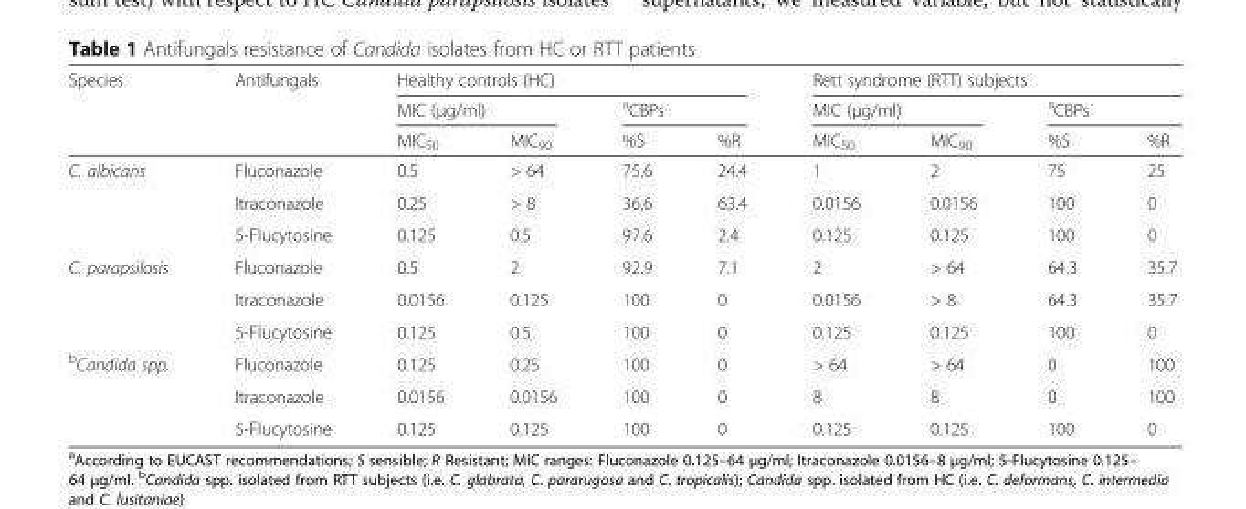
<table><thead><tr><td rowspan="3">Species</td><td rowspan="3">Antifungals</td><td colspan="4">Healthy controls (HC)</td><td colspan="4">Rett syndrome (RTT) subjects</td></tr><tr><td colspan="2">MIC (μg/ml)</td><td colspan="2"><sup>a</sup>CBPs</td><td colspan="2">MIC (μg/ml)</td><td colspan="2"><sup>a</sup>CBPs</td></tr><tr><td>MIC<sub>50</sub></td><td>MIC<sub>90</sub></td><td>%S</td><td>%R</td><td>MIC<sub>50</sub></td><td>MIC<sub>90</sub></td><td>%S</td><td>%R</td></tr></thead><tbody><tr><td rowspan="3">C. albicans</td><td>Fluconazole</td><td>0.5</td><td>&gt; 64</td><td>75.6</td><td>24.4</td><td>1</td><td>2</td><td>75</td><td>25</td></tr><tr><td>Itraconazole</td><td>0.25</td><td>&gt; 8</td><td>36.6</td><td>63.4</td><td>0.0156</td><td>0.0156</td><td>100</td><td>0</td></tr><tr><td>5-Flucytosine</td><td>0.125</td><td>0.5</td><td>97.6</td><td>2.4</td><td>0.125</td><td>0.125</td><td>100</td><td>0</td></tr><tr><td rowspan="3">C. parapsilosis</td><td>Fluconazole</td><td>0.5</td><td>2</td><td>92.9</td><td>7.1</td><td>2</td><td>&gt; 64</td><td>64.3</td><td>35.7</td></tr><tr><td>Itraconazole</td><td>0.0156</td><td>0.125</td><td>100</td><td>0</td><td>0.0156</td><td>&gt; 8</td><td>64.3</td><td>35.7</td></tr><tr><td>5-Flucytosine</td><td>0.125</td><td>0.5</td><td>100</td><td>0</td><td>0.125</td><td>0.125</td><td>100</td><td>0</td></tr><tr><td rowspan="3"><sup>b</sup>Candida spp.</td><td>Fluconazole</td><td>0.125</td><td>0.25</td><td>100</td><td>0</td><td>&gt; 64</td><td>&gt; 64</td><td>0</td><td>100</td></tr><tr><td>Itraconazole</td><td>0.0156</td><td>0.0156</td><td>100</td><td>0</td><td>8</td><td>8</td><td>0</td><td>100</td></tr><tr><td>5-Flucytosine</td><td>0.125</td><td>0.125</td><td>100</td><td>0</td><td>0.125</td><td>0.125</td><td>100</td><td>0</td></tr></tbody></table>